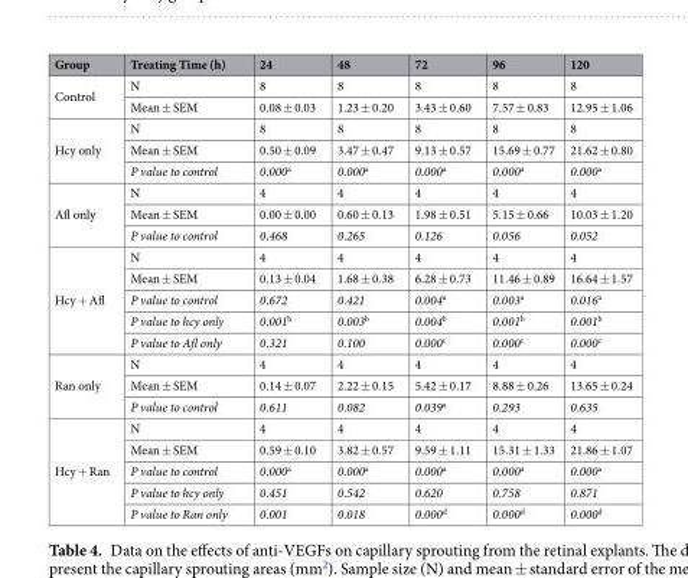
<table><thead><tr><td>Group</td><td>Treating Time (h)</td><td>24</td><td>48</td><td>72</td><td>96</td><td>120</td></tr></thead><tbody><tr><td rowspan="2">Control</td><td>N</td><td>8</td><td>8</td><td>8</td><td>8</td><td>8</td></tr><tr><td>Mean ± SEM</td><td>0.08 ± 0.03</td><td>1.23 ± 0.20</td><td>3.43 ± 0.60</td><td>7.57 ± 0.83</td><td>12.95 ± 1.06</td></tr><tr><td rowspan="3">Hcy only</td><td>N</td><td>8</td><td>8</td><td>8</td><td>8</td><td>8</td></tr><tr><td>Mean ± SEM</td><td>0.50 ± 0.09</td><td>3.47 ± 0.47</td><td>9.13 ± 0.57</td><td>15.69 ± 0.77</td><td>21.62 ± 0.80</td></tr><tr><td>P value to control</td><td>0.000<sup>a</sup></td><td>0.000<sup>a</sup></td><td>0.000<sup>a</sup></td><td>0.000<sup>a</sup></td><td>0.000<sup>a</sup></td></tr><tr><td rowspan="3">Afl only</td><td>N</td><td>4</td><td>4</td><td>4</td><td>4</td><td>4</td></tr><tr><td>Mean ± SEM</td><td>0.00 ± 0.00</td><td>0.60 ± 0.13</td><td>1.98 ± 0.51</td><td>5.15 ± 0.66</td><td>10.03 ± 1.20</td></tr><tr><td>P value to control</td><td>0.468</td><td>0.265</td><td>0.126</td><td>0.056</td><td>0.052</td></tr><tr><td rowspan="5">Hcy + Afl</td><td>N</td><td>4</td><td>4</td><td>4</td><td>4</td><td>4</td></tr><tr><td>Mean ± SEM</td><td>0.13 ± 0.04</td><td>1.68 ± 0.38</td><td>6.28 ± 0.73</td><td>11.46 ± 0.89</td><td>16.64 ± 1.57</td></tr><tr><td>P value to control</td><td>0.672</td><td>0.421</td><td>0.004<sup>a</sup></td><td>0.003<sup>a</sup></td><td>0.016<sup>a</sup></td></tr><tr><td>P value to hcy only</td><td>0.001<sup>b</sup></td><td>0.003<sup>b</sup></td><td>0.004<sup>b</sup></td><td>0.001<sup>b</sup></td><td>0.001<sup>b</sup></td></tr><tr><td>P value to Afl only</td><td>0.321</td><td>0.100</td><td>0.000<sup>c</sup></td><td>0.000<sup>c</sup></td><td>0.000<sup>c</sup></td></tr><tr><td rowspan="3">Ran only</td><td>N</td><td>4</td><td>4</td><td>4</td><td>4</td><td>4</td></tr><tr><td>Mean ± SEM</td><td>0.14 ± 0.07</td><td>2.22 ± 0.15</td><td>5.42 ± 0.17</td><td>8.88 ± 0.26</td><td>13.65 ± 0.24</td></tr><tr><td>P value to control</td><td>0.611</td><td>0.082</td><td>0.039<sup>a</sup></td><td>0.293</td><td>0.635</td></tr><tr><td rowspan="5">Hcy + Ran</td><td>N</td><td>4</td><td>4</td><td>4</td><td>4</td><td>4</td></tr><tr><td>Mean ± SEM</td><td>0.59 ± 0.10</td><td>3.82 ± 0.57</td><td>9.59 ± 1.11</td><td>15.31 ± 1.33</td><td>21.86 ± 1.07</td></tr><tr><td>P value to control</td><td>0.000<sup>a</sup></td><td>0.000<sup>a</sup></td><td>0.000<sup>a</sup></td><td>0.000<sup>a</sup></td><td>0.000<sup>a</sup></td></tr><tr><td>P value to hcy only</td><td>0.451</td><td>0.542</td><td>0.620</td><td>0.758</td><td>0.871</td></tr><tr><td>P value to Ran only</td><td>0.001</td><td>0.018</td><td>0.000<sup>d</sup></td><td>0.000<sup>d</sup></td><td>0.000<sup>d</sup></td></tr></tbody></table>